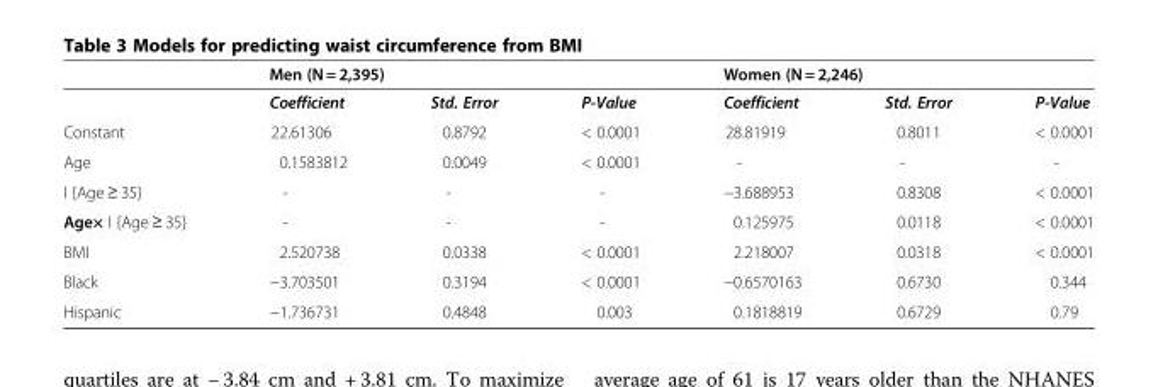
<table><thead><tr><td rowspan="2"></td><td colspan="3">Men (N = 2,395)</td><td colspan="3">Women (N = 2,246)</td></tr><tr><td>Coefficient</td><td>Std. Error</td><td>P-Value</td><td>Coefficient</td><td>Std. Error</td><td>P-Value</td></tr></thead><tbody><tr><td>Constant</td><td>22.61306</td><td>0.8792</td><td>&lt; 0.0001</td><td>28.81919</td><td>0.8011</td><td>&lt; 0.0001</td></tr><tr><td>Age</td><td>0.1583812</td><td>0.0049</td><td>&lt; 0.0001</td><td>-</td><td>-</td><td>-</td></tr><tr><td>I {Age ≥ 35}</td><td>-</td><td>-</td><td>-</td><td>−3.688953</td><td>0.8308</td><td>&lt; 0.0001</td></tr><tr><td>Age× I {Age ≥ 35}</td><td>-</td><td>-</td><td>-</td><td>0.125975</td><td>0.0118</td><td>&lt; 0.0001</td></tr><tr><td>BMI</td><td>2.520738</td><td>0.0338</td><td>&lt; 0.0001</td><td>2.218007</td><td>0.0318</td><td>&lt; 0.0001</td></tr><tr><td>Black</td><td>−3.703501</td><td>0.3194</td><td>&lt; 0.0001</td><td>−0.6570163</td><td>0.6730</td><td>0.344</td></tr><tr><td>Hispanic</td><td>−1.736731</td><td>0.4848</td><td>0.003</td><td>0.1818819</td><td>0.6729</td><td>0.79</td></tr></tbody></table>